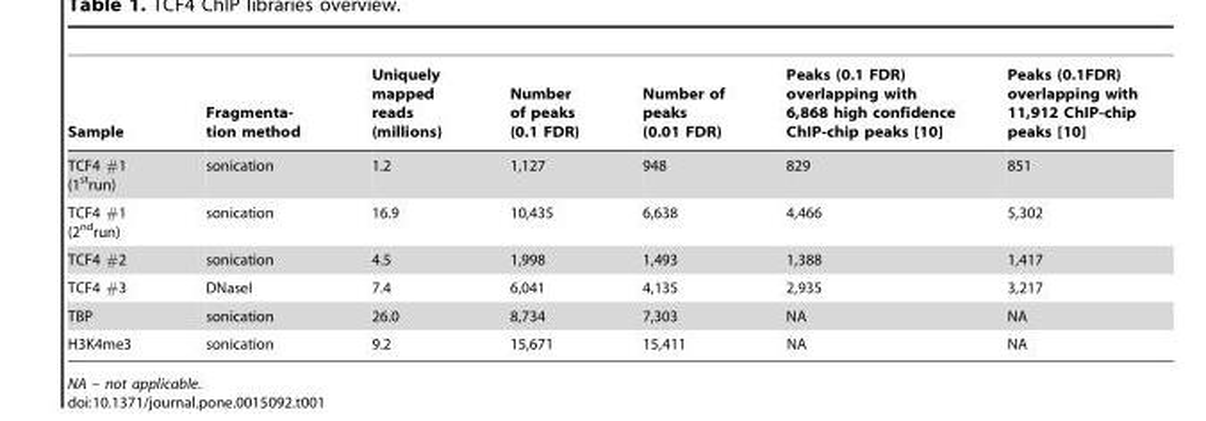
<table><thead><tr><td>Sample</td><td>Fragmenta- tion method</td><td>Uniquely mapped reads (millions)</td><td>Number of peaks (0.1 FDR)</td><td>Number of peaks (0.01 FDR)</td><td>Peaks (0.1 FDR) overlapping with 6,868 high confidence ChIP-chip peaks [10]</td><td>Peaks (0.1FDR) overlapping with 11,912 ChIP-chip peaks [10]</td></tr></thead><tbody><tr><td>TCF4 #1 (1<sup>st</sup>run)</td><td>sonication</td><td>1.2</td><td>1,127</td><td>948</td><td>829</td><td>851</td></tr><tr><td>TCF4 #1 (2<sup>nd</sup>run)</td><td>sonication</td><td>16.9</td><td>10,435</td><td>6,638</td><td>4,466</td><td>5,302</td></tr><tr><td>TCF4 #2</td><td>sonication</td><td>4.5</td><td>1,998</td><td>1,493</td><td>1,388</td><td>1,417</td></tr><tr><td>TCF4 #3</td><td>DNaseI</td><td>7.4</td><td>6,041</td><td>4,135</td><td>2,935</td><td>3,217</td></tr><tr><td>TBP</td><td>sonication</td><td>26.0</td><td>8,734</td><td>7,303</td><td>NA</td><td>NA</td></tr><tr><td>H3K4me3</td><td>sonication</td><td>9.2</td><td>15,671</td><td>15,411</td><td>NA</td><td>NA</td></tr></tbody></table>